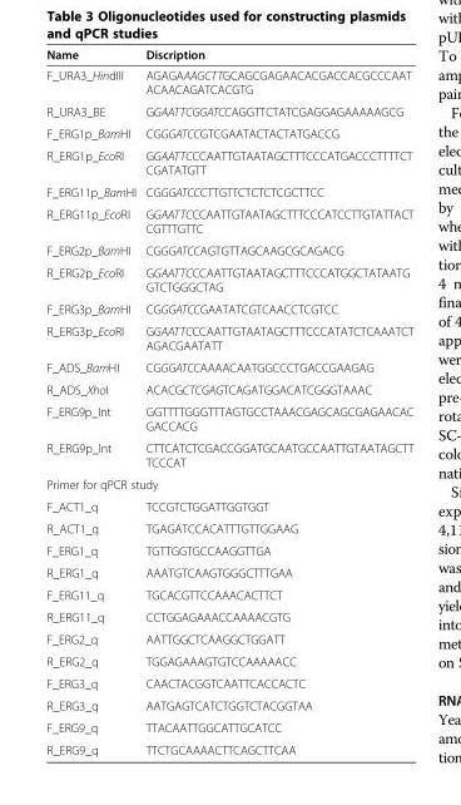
<table><thead><tr><td>Name</td><td>Discription</td></tr></thead><tbody><tr><td>F_URA3_HindIII</td><td>AGAGAAAGCTTGCAGCGAGAACACGACCACGCCCAAT ACAACAGATCACGTG</td></tr><tr><td>R_URA3_BE</td><td>GGAATTCGGATCCAGGTTCTATCGAGGAGAAAAAGCG</td></tr><tr><td>F_ERG1p_BamHI</td><td>CGGGATCCGTCGAATACTACTATGACCG</td></tr><tr><td>R_ERG1p_EcoRI</td><td>GGAATTCCCAATTGTAATAGCTTTCCCATGACCCTTTTCT CGATATGTT</td></tr><tr><td>F_ERG11p_BamHI</td><td>CGGGATCCCTTGTTCTCTCTCGCTTCC</td></tr><tr><td>R_ERG11p_EcoRI</td><td>GGAATTCCCAATTGTAATAGCTTTCCCATCCTTGTATTACT CGTTTGTTC</td></tr><tr><td>F_ERG2p_BamHI</td><td>CGGGATCCAGTGTTAGCAAGCGCAGACG</td></tr><tr><td>R_ERG2p_EcoRI</td><td>GGAATTCCCAATTGTAATAGCTTTCCCATGGCTATAATG GTCTGGGCTAG</td></tr><tr><td>F_ERG3p_BamHI</td><td>CGGGATCCGAATATCGTCAACCTCGTCC</td></tr><tr><td>R_ERG3p_EcoRI</td><td>GGAATTCCCAATTGTAATAGCTTTCCCATATCTCAAATCT AGACGAATATT</td></tr><tr><td>F_ADS_BamHI</td><td>CGGGATCCAAAACAATGGCCCTGACCGAAGAG</td></tr><tr><td>R_ADS_XhoI</td><td>ACACGCTCGAGTCAGATGGACATCGGGTAAAC</td></tr><tr><td>F_ERG9p_Int</td><td>GGTTTTGGGTTTAGTGCCTAAACGAGCAGCGAGAACAC GACCACG</td></tr><tr><td>R_ERG9p_Int</td><td>CTTCATCTCGACCGGATGCAATGCCAATTGTAATAGCTT TCCCAT</td></tr><tr><td colspan="2">Primer for qPCR study</td></tr><tr><td>F_ACT1_q</td><td>TCCGTCTGGATTGGTGGT</td></tr><tr><td>R_ACT1_q</td><td>TGAGATCCACATTTGTTGGAAG</td></tr><tr><td>F_ERG1_q</td><td>TGTTGGTGCCAAGGTTGA</td></tr><tr><td>R_ERG1_q</td><td>AAATGTCAAGTGGGCTTTGAA</td></tr><tr><td>F_ERG11_q</td><td>TGCACGTTCCAAACACTTCT</td></tr><tr><td>R_ERG11_q</td><td>CCTGGAGAAACCAAAACGTG</td></tr><tr><td>F_ERG2_q</td><td>AATTGGCTCAAGGCTGGATT</td></tr><tr><td>R_ERG2_q</td><td>TGGAGAAAGTGTCCAAAAACC</td></tr><tr><td>F_ERG3_q</td><td>CAACTACGGTCAATTCACCACTC</td></tr><tr><td>R_ERG3_q</td><td>AATGAGTCATCTGGTCTACGGTAA</td></tr><tr><td>F_ERG9_q</td><td>TTACAATTGGCATTGCATCC</td></tr><tr><td>R_ERG9_q</td><td>TTCTGCAAAACTTCAGCTTCAA</td></tr></tbody></table>